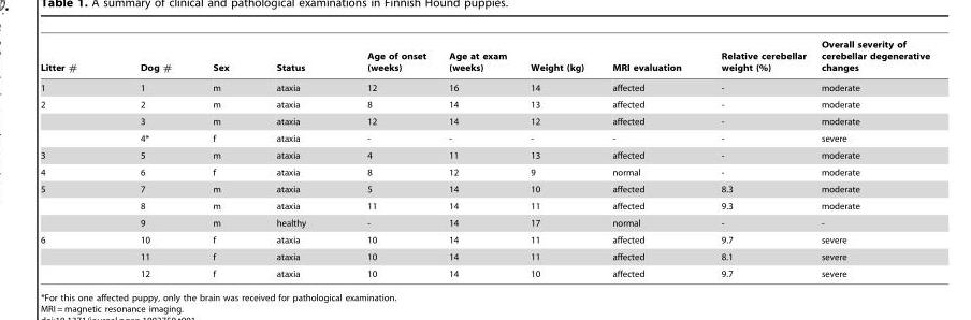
<table><thead><tr><td>Litter #</td><td>Dog #</td><td>Sex</td><td>Status</td><td>Age of onset (weeks)</td><td>Age at exam (weeks)</td><td>Weight (kg)</td><td>MRI evaluation</td><td>Relative cerebellar weight (%)</td><td>Overall severity of cerebellar degenerative changes</td></tr></thead><tbody><tr><td>1</td><td>1</td><td>m</td><td>ataxia</td><td>12</td><td>16</td><td>14</td><td>affected</td><td>-</td><td>moderate</td></tr><tr><td rowspan="3">2</td><td>2</td><td>m</td><td>ataxia</td><td>8</td><td>14</td><td>13</td><td>affected</td><td>-</td><td>moderate</td></tr><tr><td>3</td><td>m</td><td>ataxia</td><td>12</td><td>14</td><td>12</td><td>affected</td><td>-</td><td>moderate</td></tr><tr><td>4*</td><td>f</td><td>ataxia</td><td>-</td><td>-</td><td>-</td><td>-</td><td>-</td><td>severe</td></tr><tr><td>3</td><td>5</td><td>m</td><td>ataxia</td><td>4</td><td>11</td><td>13</td><td>affected</td><td>-</td><td>moderate</td></tr><tr><td>4</td><td>6</td><td>f</td><td>ataxia</td><td>8</td><td>12</td><td>9</td><td>normal</td><td>-</td><td>moderate</td></tr><tr><td rowspan="3">5</td><td>7</td><td>m</td><td>ataxia</td><td>5</td><td>14</td><td>10</td><td>affected</td><td>8.3</td><td>moderate</td></tr><tr><td>8</td><td>m</td><td>ataxia</td><td>11</td><td>14</td><td>11</td><td>affected</td><td>9.3</td><td>moderate</td></tr><tr><td>9</td><td>m</td><td>healthy</td><td>-</td><td>14</td><td>17</td><td>normal</td><td>-</td><td>-</td></tr><tr><td rowspan="3">6</td><td>10</td><td>f</td><td>ataxia</td><td>10</td><td>14</td><td>11</td><td>affected</td><td>9.7</td><td>severe</td></tr><tr><td>11</td><td>f</td><td>ataxia</td><td>10</td><td>14</td><td>11</td><td>affected</td><td>8.1</td><td>severe</td></tr><tr><td>12</td><td>f</td><td>ataxia</td><td>10</td><td>14</td><td>10</td><td>affected</td><td>9.7</td><td>severe</td></tr></tbody></table>